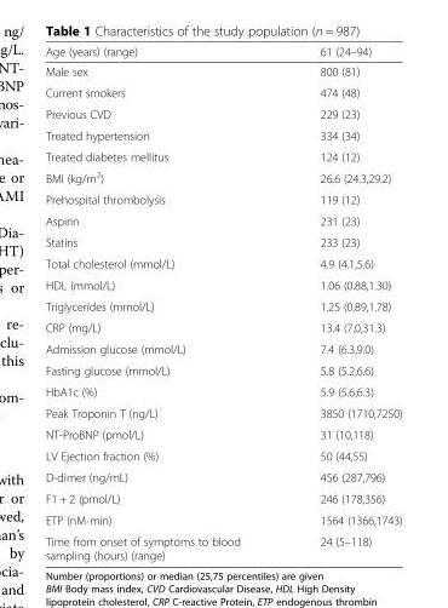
<table><thead><tr><td>Age (years) (range)</td><td>61 (24–94)</td></tr></thead><tbody><tr><td>Male sex</td><td>800 (81)</td></tr><tr><td>Current smokers</td><td>474 (48)</td></tr><tr><td>Previous CVD</td><td>229 (23)</td></tr><tr><td>Treated hypertension</td><td>334 (34)</td></tr><tr><td>Treated diabetes mellitus</td><td>124 (12)</td></tr><tr><td>BMI (kg/m<sup>2</sup>)</td><td>26.6 (24.3,29.2)</td></tr><tr><td>Prehospital thrombolysis</td><td>119 (12)</td></tr><tr><td>Aspirin</td><td>231 (23)</td></tr><tr><td>Statins</td><td>233 (23)</td></tr><tr><td>Total cholesterol (mmol/L)</td><td>4.9 (4.1,5.6)</td></tr><tr><td>HDL (mmol/L)</td><td>1.06 (0.88,1.30)</td></tr><tr><td>Triglycerides (mmol/L)</td><td>1.25 (0.89,1.78)</td></tr><tr><td>CRP (mg/L)</td><td>13.4 (7.0,31.3)</td></tr><tr><td>Admission glucose (mmol/L)</td><td>7.4 (6.3,9.0)</td></tr><tr><td>Fasting glucose (mmol/L)</td><td>5.8 (5.2,6.6)</td></tr><tr><td>HbA1c (%)</td><td>5.9 (5.6,6.3)</td></tr><tr><td>Peak Troponin T (ng/L)</td><td>3850 (1710,7250)</td></tr><tr><td>NT-ProBNP (pmol/L)</td><td>31 (10,118)</td></tr><tr><td>LV Ejection fraction (%)</td><td>50 (44,55)</td></tr><tr><td>D-dimer (ng/mL)</td><td>456 (287,796)</td></tr><tr><td>F1 + 2 (pmol/L)</td><td>246 (178,356)</td></tr><tr><td>ETP (nM⋅min)</td><td>1564 (1366,1743)</td></tr><tr><td>Time from onset of symptoms to blood sampling (hours) (range)</td><td>24 (5–118)</td></tr></tbody></table>